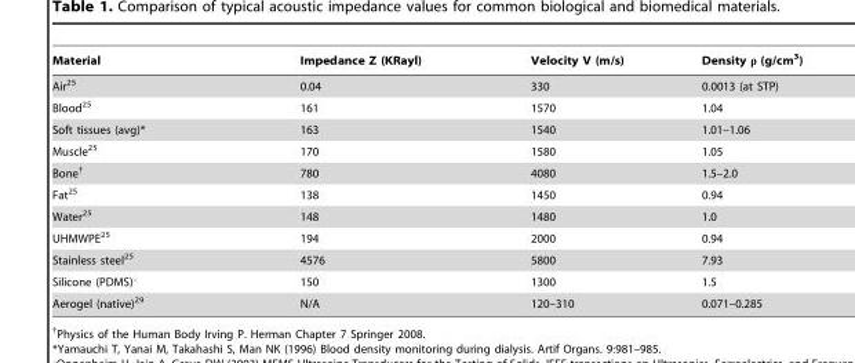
<table><thead><tr><td>Material</td><td>Impedance Z (KRayl)</td><td>Velocity V (m/s)</td><td>Density ρ (g/cm<sup>3</sup>)</td></tr></thead><tbody><tr><td>Air<sup>25</sup></td><td>0.04</td><td>330</td><td>0.0013 (at STP)</td></tr><tr><td>Blood<sup>25</sup></td><td>161</td><td>1570</td><td>1.04</td></tr><tr><td>Soft tissues (avg)*</td><td>163</td><td>1540</td><td>1.01–1.06</td></tr><tr><td>Muscle<sup>25</sup></td><td>170</td><td>1580</td><td>1.05</td></tr><tr><td>Bone†</td><td>780</td><td>4080</td><td>1.5–2.0</td></tr><tr><td>Fat<sup>25</sup></td><td>138</td><td>1450</td><td>0.94</td></tr><tr><td>Water<sup>25</sup></td><td>148</td><td>1480</td><td>1.0</td></tr><tr><td>UHMWPE<sup>25</sup></td><td>194</td><td>2000</td><td>0.94</td></tr><tr><td>Stainless steel<sup>25</sup></td><td>4576</td><td>5800</td><td>7.93</td></tr><tr><td>Silicone (PDMS)‘</td><td>150</td><td>1300</td><td>1.5</td></tr><tr><td>Aerogel (native)<sup>29</sup></td><td>N/A</td><td>120–310</td><td>0.071–0.285</td></tr></tbody></table>